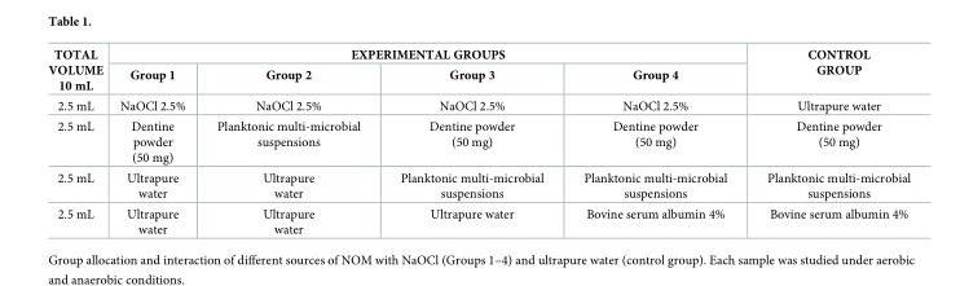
<table><thead><tr><td rowspan="2">TOTAL VOLUME 10 mL</td><td colspan="4">EXPERIMENTAL GROUPS</td><td rowspan="2">CONTROL GROUP</td></tr><tr><td>Group 1</td><td>Group 2</td><td>Group 3</td><td>Group 4</td></tr></thead><tbody><tr><td>2.5 mL</td><td>NaOCl 2.5%</td><td>NaOCl 2.5%</td><td>NaOCl 2.5%</td><td>NaOCl 2.5%</td><td>Ultrapure water</td></tr><tr><td>2.5 mL</td><td>Dentine powder (50 mg)</td><td>Planktonic multi-microbial suspensions</td><td>Dentine powder (50 mg)</td><td>Dentine powder (50 mg)</td><td>Dentine powder (50 mg)</td></tr><tr><td>2.5 mL</td><td>Ultrapure water</td><td>Ultrapure water</td><td>Planktonic multi-microbial suspensions</td><td>Planktonic multi-microbial suspensions</td><td>Planktonic multi-microbial suspensions</td></tr><tr><td>2.5 mL</td><td>Ultrapure water</td><td>Ultrapure water</td><td>Ultrapure water</td><td>Bovine serum albumin 4%</td><td>Bovine serum albumin 4%</td></tr></tbody></table>